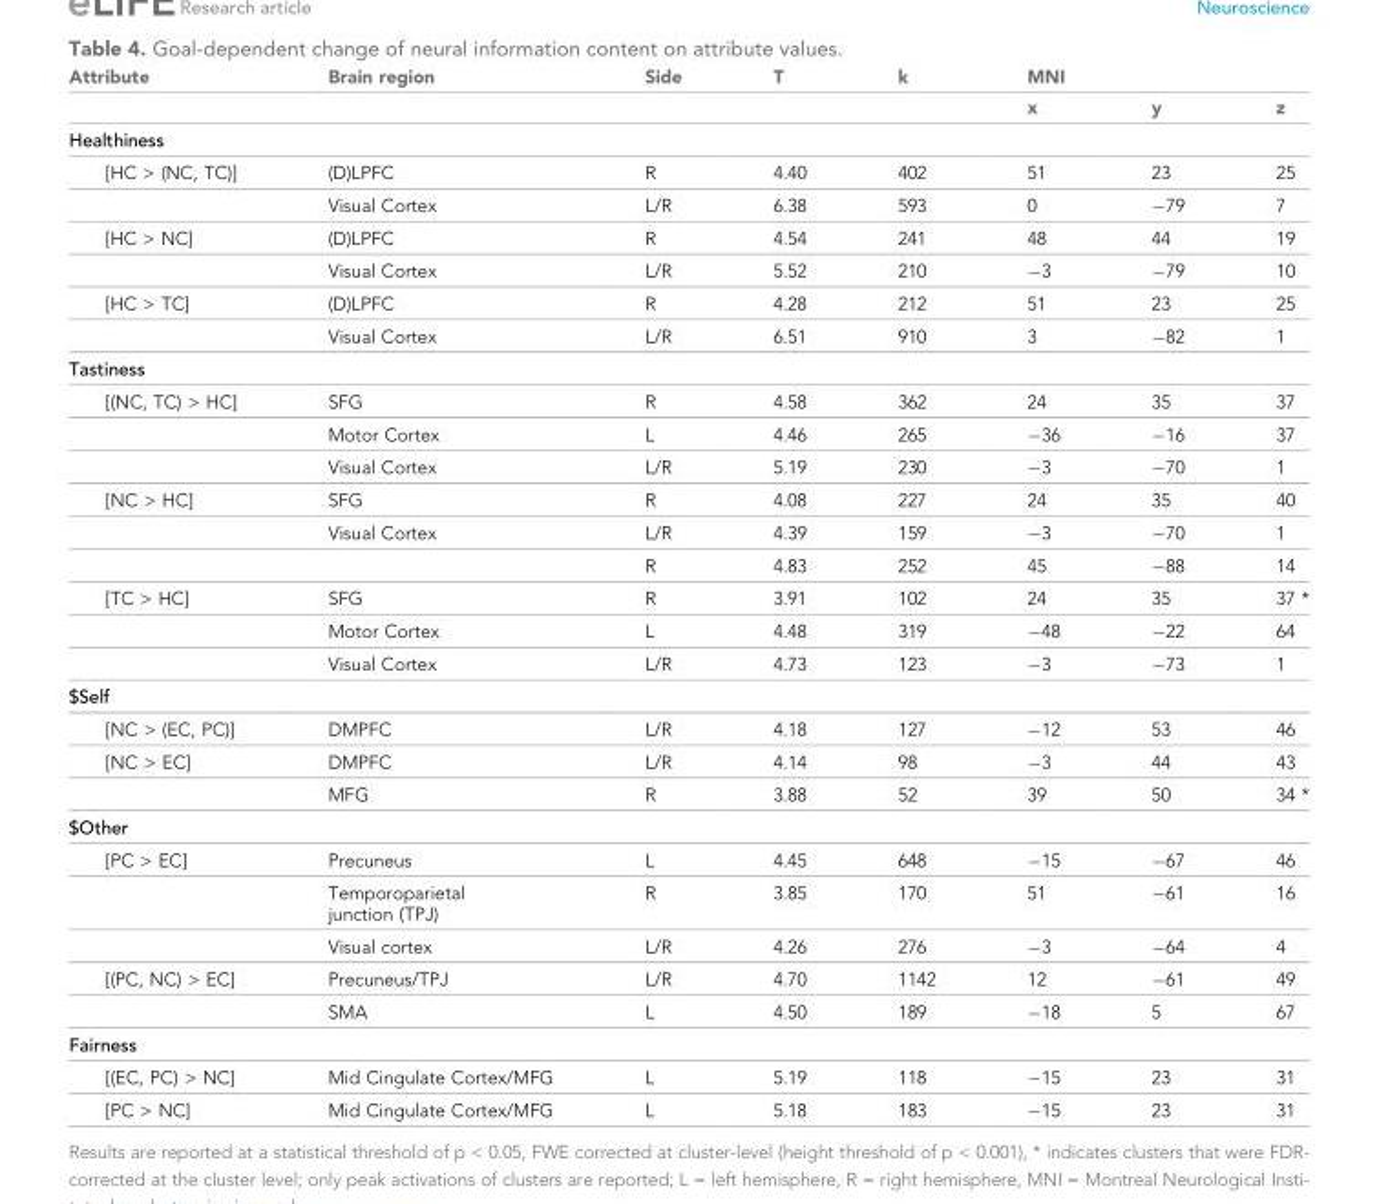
<table><thead><tr><td rowspan="2">Attribute</td><td rowspan="2">Brain region</td><td rowspan="2">Side</td><td rowspan="2">T</td><td rowspan="2">k</td><td colspan="3">MNI</td></tr><tr><td>x</td><td>y</td><td>z</td></tr></thead><tbody><tr><td colspan="8">Healthiness</td></tr><tr><td rowspan="2">[HC &gt; (NC, TC)]</td><td>(D)LPFC</td><td>R</td><td>4.40</td><td>402</td><td>51</td><td>23</td><td>25</td></tr><tr><td>Visual Cortex</td><td>L/R</td><td>6.38</td><td>593</td><td>0</td><td>−79</td><td>7</td></tr><tr><td rowspan="2">[HC &gt; NC]</td><td>(D)LPFC</td><td>R</td><td>4.54</td><td>241</td><td>48</td><td>44</td><td>19</td></tr><tr><td>Visual Cortex</td><td>L/R</td><td>5.52</td><td>210</td><td>−3</td><td>−79</td><td>10</td></tr><tr><td rowspan="2">[HC &gt; TC]</td><td>(D)LPFC</td><td>R</td><td>4.28</td><td>212</td><td>51</td><td>23</td><td>25</td></tr><tr><td>Visual Cortex</td><td>L/R</td><td>6.51</td><td>910</td><td>3</td><td>−82</td><td>1</td></tr><tr><td colspan="8">Tastiness</td></tr><tr><td rowspan="3">[(NC, TC) &gt; HC]</td><td>SFG</td><td>R</td><td>4.58</td><td>362</td><td>24</td><td>35</td><td>37</td></tr><tr><td>Motor Cortex</td><td>L</td><td>4.46</td><td>265</td><td>−36</td><td>−16</td><td>37</td></tr><tr><td>Visual Cortex</td><td>L/R</td><td>5.19</td><td>230</td><td>−3</td><td>−70</td><td>1</td></tr><tr><td rowspan="3">[NC &gt; HC]</td><td>SFG</td><td>R</td><td>4.08</td><td>227</td><td>24</td><td>35</td><td>40</td></tr><tr><td>Visual Cortex</td><td>L/R</td><td>4.39</td><td>159</td><td>−3</td><td>−70</td><td>1</td></tr><tr><td></td><td>R</td><td>4.83</td><td>252</td><td>45</td><td>−88</td><td>14</td></tr><tr><td rowspan="3">[TC &gt; HC]</td><td>SFG</td><td>R</td><td>3.91</td><td>102</td><td>24</td><td>35</td><td>37 *</td></tr><tr><td>Motor Cortex</td><td>L</td><td>4.48</td><td>319</td><td>−48</td><td>−22</td><td>64</td></tr><tr><td>Visual Cortex</td><td>L/R</td><td>4.73</td><td>123</td><td>−3</td><td>−73</td><td>1</td></tr><tr><td colspan="8">$Self</td></tr><tr><td>[NC &gt; (EC, PC)]</td><td>DMPFC</td><td>L/R</td><td>4.18</td><td>127</td><td>−12</td><td>53</td><td>46</td></tr><tr><td rowspan="2">[NC &gt; EC]</td><td>DMPFC</td><td>L/R</td><td>4.14</td><td>98</td><td>−3</td><td>44</td><td>43</td></tr><tr><td>MFG</td><td>R</td><td>3.88</td><td>52</td><td>39</td><td>50</td><td>34 *</td></tr><tr><td colspan="8">$Other</td></tr><tr><td rowspan="3">[PC &gt; EC]</td><td>Precuneus</td><td>L</td><td>4.45</td><td>648</td><td>−15</td><td>−67</td><td>46</td></tr><tr><td>Temporoparietal junction (TPJ)</td><td>R</td><td>3.85</td><td>170</td><td>51</td><td>−61</td><td>16</td></tr><tr><td>Visual cortex</td><td>L/R</td><td>4.26</td><td>276</td><td>−3</td><td>−64</td><td>4</td></tr><tr><td rowspan="2">[(PC, NC) &gt; EC]</td><td>Precuneus/TPJ</td><td>L/R</td><td>4.70</td><td>1142</td><td>12</td><td>−61</td><td>49</td></tr><tr><td>SMA</td><td>L</td><td>4.50</td><td>189</td><td>−18</td><td>5</td><td>67</td></tr><tr><td colspan="8">Fairness</td></tr><tr><td>[(EC, PC) &gt; NC]</td><td>Mid Cingulate Cortex/MFG</td><td>L</td><td>5.19</td><td>118</td><td>−15</td><td>23</td><td>31</td></tr><tr><td>[PC &gt; NC]</td><td>Mid Cingulate Cortex/MFG</td><td>L</td><td>5.18</td><td>183</td><td>−15</td><td>23</td><td>31</td></tr></tbody></table>